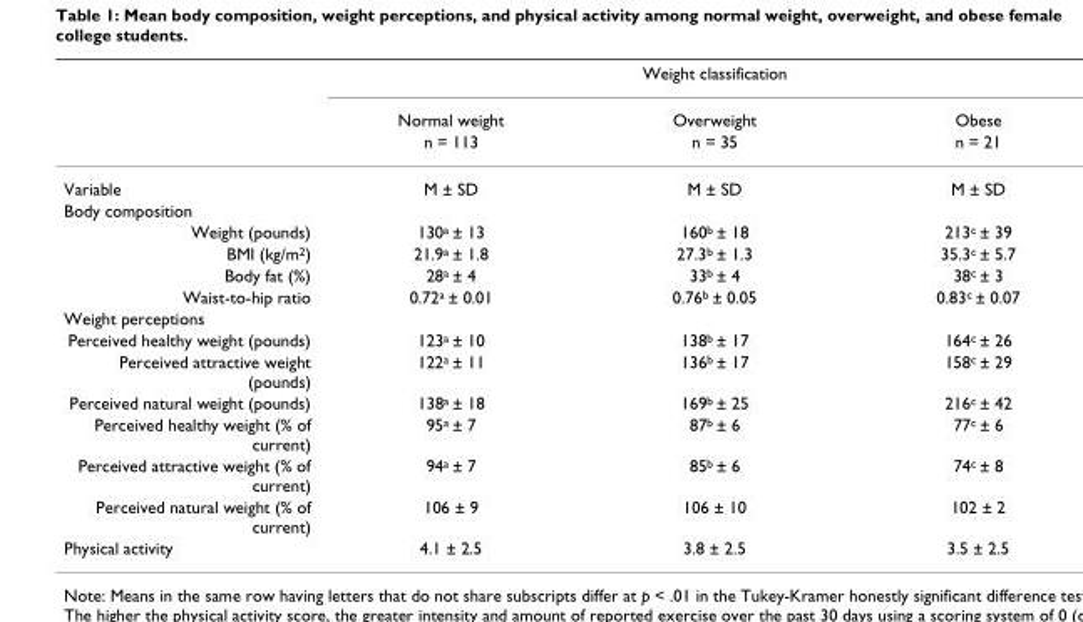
<table><thead><tr><td rowspan="3"></td><td colspan="3">Weight classification</td></tr><tr><td rowspan="2">Normal weight n = 113</td><td rowspan="2">Overweight n = 35</td><td rowspan="2">Obese n = 21</td></tr><tr></tr></thead><tbody><tr><td>Variable</td><td>M ± SD</td><td>M ± SD</td><td>M ± SD</td></tr><tr><td colspan="4">Body composition</td></tr><tr><td>Weight (pounds)</td><td>130<sup>a</sup> ± 13</td><td>160<sup>b</sup> ± 18</td><td>213<sup>c</sup> ± 39</td></tr><tr><td>BMI (kg/m<sup>2</sup>)</td><td>21.9<sup>a</sup> ± 1.8</td><td>27.3<sup>b</sup> ± 1.3</td><td>35.3<sup>c</sup> ± 5.7</td></tr><tr><td>Body fat (%)</td><td>28<sup>a</sup> ± 4</td><td>33<sup>b</sup> ± 4</td><td>38<sup>c</sup> ± 3</td></tr><tr><td>Waist-to-hip ratio</td><td>0.72<sup>a</sup> ± 0.01</td><td>0.76<sup>b</sup> ± 0.05</td><td>0.83<sup>c</sup> ± 0.07</td></tr><tr><td colspan="4">Weight perceptions</td></tr><tr><td>Perceived healthy weight (pounds)</td><td>123<sup>a</sup> ± 10</td><td>138<sup>b</sup> ± 17</td><td>164<sup>c</sup> ± 26</td></tr><tr><td>Perceived attractive weight (pounds)</td><td>122<sup>a</sup> ± 11</td><td>136<sup>b</sup> ± 17</td><td>158<sup>c</sup> ± 29</td></tr><tr><td>Perceived natural weight (pounds)</td><td>138<sup>a</sup> ± 18</td><td>169<sup>b</sup> ± 25</td><td>216<sup>c</sup> ± 42</td></tr><tr><td>Perceived healthy weight (% of current)</td><td>95<sup>a</sup> ± 7</td><td>87<sup>b</sup> ± 6</td><td>77<sup>c</sup> ± 6</td></tr><tr><td>Perceived attractive weight (% of current)</td><td>94<sup>a</sup> ± 7</td><td>85<sup>b</sup> ± 6</td><td>74<sup>c</sup> ± 8</td></tr><tr><td>Perceived natural weight (% of current)</td><td>106 ± 9</td><td>106 ± 10</td><td>102 ± 2</td></tr><tr><td>Physical activity</td><td>4.1 ± 2.5</td><td>3.8 ± 2.5</td><td>3.5 ± 2.5</td></tr></tbody></table>